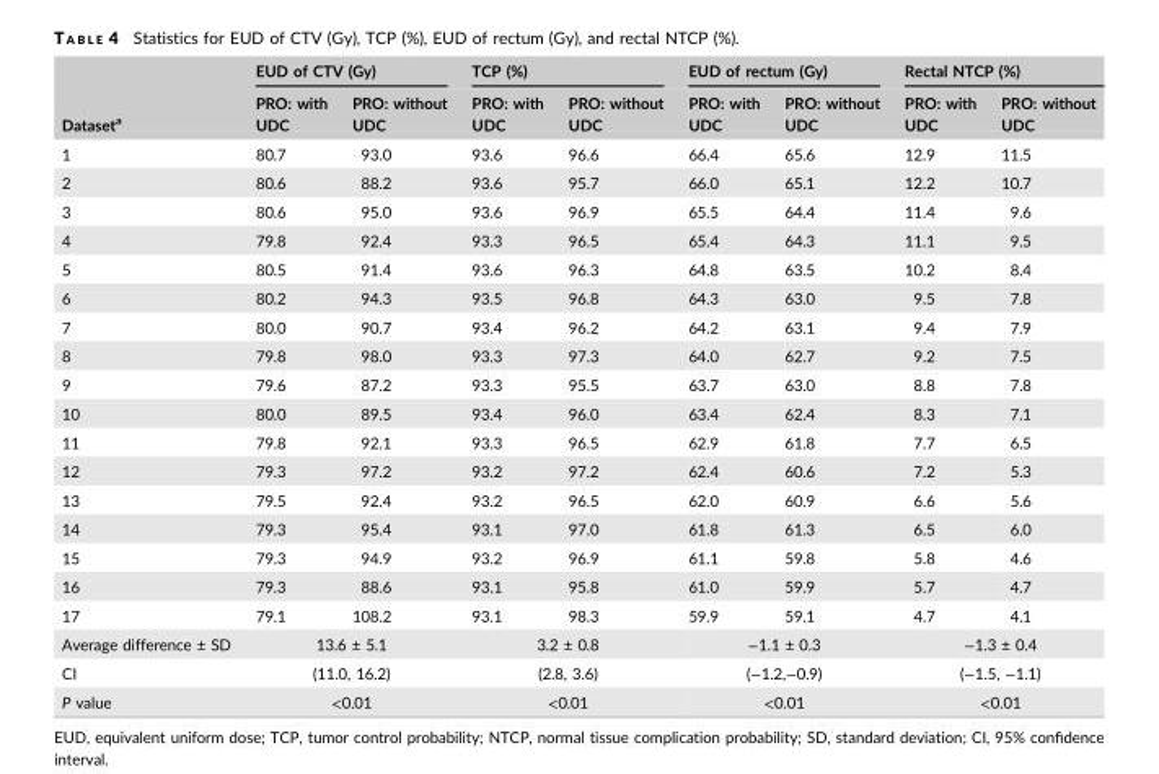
<table><thead><tr><td rowspan="2">Dataset<sup>a</sup></td><td colspan="2">EUD of CTV (Gy)</td><td colspan="2">TCP (%)</td><td colspan="2">EUD of rectum (Gy)</td><td colspan="2">Rectal NTCP (%)</td></tr><tr><td>PRO: with UDC</td><td>PRO: without UDC</td><td>PRO: with UDC</td><td>PRO: without UDC</td><td>PRO: with UDC</td><td>PRO: without UDC</td><td>PRO: with UDC</td><td>PRO: without UDC</td></tr></thead><tbody><tr><td>1</td><td>80.7</td><td>93.0</td><td>93.6</td><td>96.6</td><td>66.4</td><td>65.6</td><td>12.9</td><td>11.5</td></tr><tr><td>2</td><td>80.6</td><td>88.2</td><td>93.6</td><td>95.7</td><td>66.0</td><td>65.1</td><td>12.2</td><td>10.7</td></tr><tr><td>3</td><td>80.6</td><td>95.0</td><td>93.6</td><td>96.9</td><td>65.5</td><td>64.4</td><td>11.4</td><td>9.6</td></tr><tr><td>4</td><td>79.8</td><td>92.4</td><td>93.3</td><td>96.5</td><td>65.4</td><td>64.3</td><td>11.1</td><td>9.5</td></tr><tr><td>5</td><td>80.5</td><td>91.4</td><td>93.6</td><td>96.3</td><td>64.8</td><td>63.5</td><td>10.2</td><td>8.4</td></tr><tr><td>6</td><td>80.2</td><td>94.3</td><td>93.5</td><td>96.8</td><td>64.3</td><td>63.0</td><td>9.5</td><td>7.8</td></tr><tr><td>7</td><td>80.0</td><td>90.7</td><td>93.4</td><td>96.2</td><td>64.2</td><td>63.1</td><td>9.4</td><td>7.9</td></tr><tr><td>8</td><td>79.8</td><td>98.0</td><td>93.3</td><td>97.3</td><td>64.0</td><td>62.7</td><td>9.2</td><td>7.5</td></tr><tr><td>9</td><td>79.6</td><td>87.2</td><td>93.3</td><td>95.5</td><td>63.7</td><td>63.0</td><td>8.8</td><td>7.8</td></tr><tr><td>10</td><td>80.0</td><td>89.5</td><td>93.4</td><td>96.0</td><td>63.4</td><td>62.4</td><td>8.3</td><td>7.1</td></tr><tr><td>11</td><td>79.8</td><td>92.1</td><td>93.3</td><td>96.5</td><td>62.9</td><td>61.8</td><td>7.7</td><td>6.5</td></tr><tr><td>12</td><td>79.3</td><td>97.2</td><td>93.2</td><td>97.2</td><td>62.4</td><td>60.6</td><td>7.2</td><td>5.3</td></tr><tr><td>13</td><td>79.5</td><td>92.4</td><td>93.2</td><td>96.5</td><td>62.0</td><td>60.9</td><td>6.6</td><td>5.6</td></tr><tr><td>14</td><td>79.3</td><td>95.4</td><td>93.1</td><td>97.0</td><td>61.8</td><td>61.3</td><td>6.5</td><td>6.0</td></tr><tr><td>15</td><td>79.3</td><td>94.9</td><td>93.2</td><td>96.9</td><td>61.1</td><td>59.8</td><td>5.8</td><td>4.6</td></tr><tr><td>16</td><td>79.3</td><td>88.6</td><td>93.1</td><td>95.8</td><td>61.0</td><td>59.9</td><td>5.7</td><td>4.7</td></tr><tr><td>17</td><td>79.1</td><td>108.2</td><td>93.1</td><td>98.3</td><td>59.9</td><td>59.1</td><td>4.7</td><td>4.1</td></tr><tr><td>Average difference ± SD</td><td colspan="2">13.6 ± 5.1</td><td colspan="2">3.2 ± 0.8</td><td colspan="2">−1.1 ± 0.3</td><td colspan="2">−1.3 ± 0.4</td></tr><tr><td>CI</td><td colspan="2">(11.0, 16.2)</td><td colspan="2">(2.8, 3.6)</td><td colspan="2">(−1.2,−0.9)</td><td colspan="2">(−1.5, −1.1)</td></tr><tr><td>P value</td><td colspan="2">&lt;0.01</td><td colspan="2">&lt;0.01</td><td colspan="2">&lt;0.01</td><td colspan="2">&lt;0.01</td></tr></tbody></table>